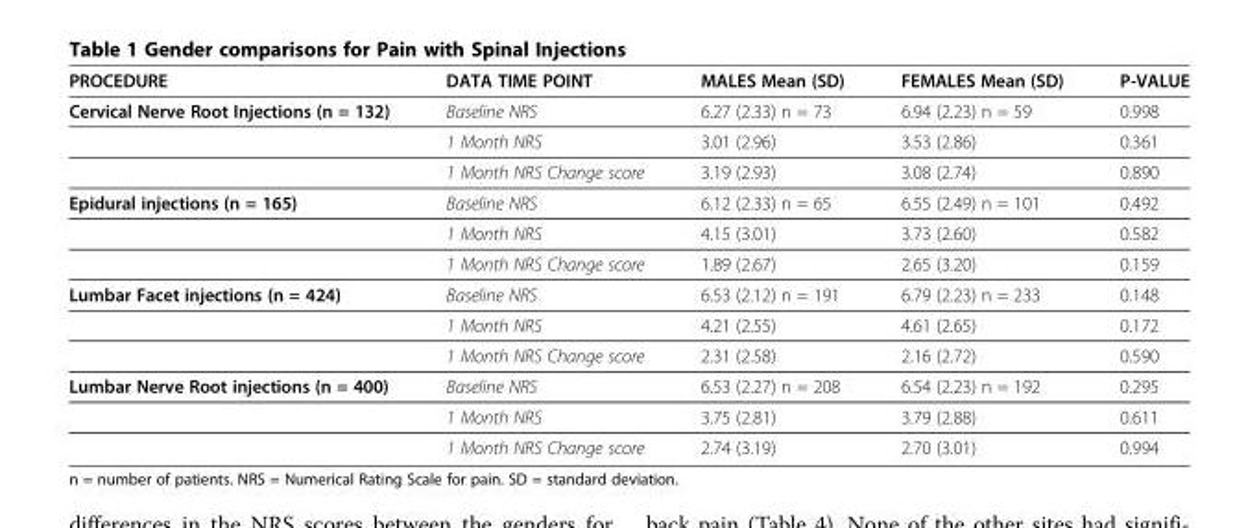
<table><thead><tr><td>PROCEDURE</td><td>DATA TIME POINT</td><td>MALES Mean (SD)</td><td>FEMALES Mean (SD)</td><td>P-VALUE</td></tr></thead><tbody><tr><td rowspan="3">Cervical Nerve Root Injections (n = 132)</td><td>Baseline NRS</td><td>6.27 (2.33) n = 73</td><td>6.94 (2.23) n = 59</td><td>0.998</td></tr><tr><td>1 Month NRS</td><td>3.01 (2.96)</td><td>3.53 (2.86)</td><td>0.361</td></tr><tr><td>1 Month NRS Change score</td><td>3.19 (2.93)</td><td>3.08 (2.74)</td><td>0.890</td></tr><tr><td rowspan="3">Epidural injections (n = 165)</td><td>Baseline NRS</td><td>6.12 (2.33) n = 65</td><td>6.55 (2.49) n = 101</td><td>0.492</td></tr><tr><td>1 Month NRS</td><td>4.15 (3.01)</td><td>3.73 (2.60)</td><td>0.582</td></tr><tr><td>1 Month NRS Change score</td><td>1.89 (2.67)</td><td>2.65 (3.20)</td><td>0.159</td></tr><tr><td rowspan="3">Lumbar Facet injections (n = 424)</td><td>Baseline NRS</td><td>6.53 (2.12) n = 191</td><td>6.79 (2.23) n = 233</td><td>0.148</td></tr><tr><td>1 Month NRS</td><td>4.21 (2.55)</td><td>4.61 (2.65)</td><td>0.172</td></tr><tr><td>1 Month NRS Change score</td><td>2.31 (2.58)</td><td>2.16 (2.72)</td><td>0.590</td></tr><tr><td rowspan="3">Lumbar Nerve Root injections (n = 400)</td><td>Baseline NRS</td><td>6.53 (2.27) n = 208</td><td>6.54 (2.23) n = 192</td><td>0.295</td></tr><tr><td>1 Month NRS</td><td>3.75 (2.81)</td><td>3.79 (2.88)</td><td>0.611</td></tr><tr><td>1 Month NRS Change score</td><td>2.74 (3.19)</td><td>2.70 (3.01)</td><td>0.994</td></tr></tbody></table>